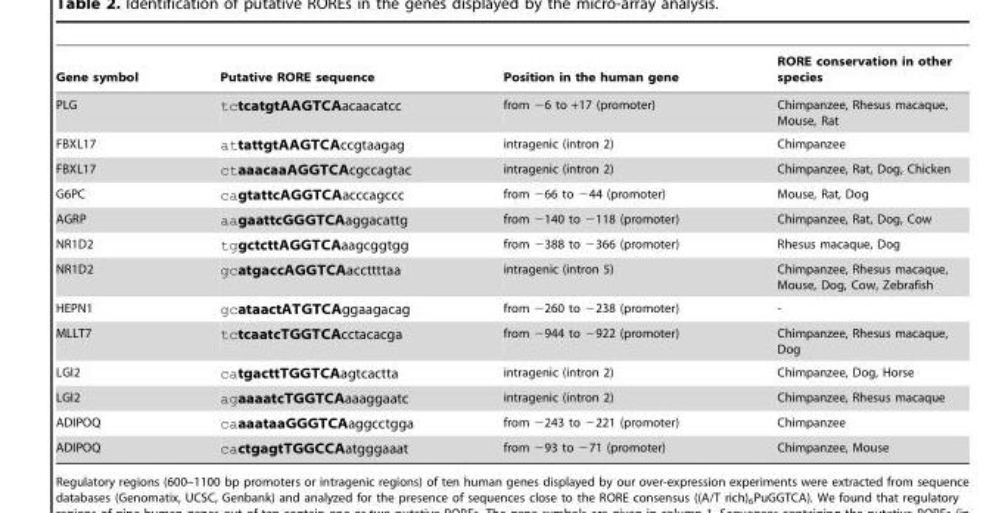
<table><thead><tr><td>Gene symbol</td><td>Putative RORE sequence</td><td>Position in the human gene</td><td>RORE conservation in other species</td></tr></thead><tbody><tr><td>PLG</td><td>tctcatgtAAGTCAacaacatcc</td><td>from −6 to +17 (promoter)</td><td>Chimpanzee, Rhesus macaque, Mouse, Rat</td></tr><tr><td>FBXL17</td><td>attattgtAAGTCAccgtaagag</td><td>intragenic (intron 2)</td><td>Chimpanzee</td></tr><tr><td>FBXL17</td><td>ctaaacaaAGGTCAcgccagtac</td><td>intragenic (intron 2)</td><td>Chimpanzee, Rat, Dog, Chicken</td></tr><tr><td>G6PC</td><td>cagtattcAGGTCAacccagccc</td><td>from −66 to −44 (promoter)</td><td>Mouse, Rat, Dog</td></tr><tr><td>AGRP</td><td>aagaattcGGGTCAaggacattg</td><td>from −140 to −118 (promoter)</td><td>Chimpanzee, Rat, Dog, Cow</td></tr><tr><td>NR1D2</td><td>tggctcttAGGTCAaagcggtgg</td><td>from −388 to −366 (promoter)</td><td>Rhesus macaque, Dog</td></tr><tr><td>NR1D2</td><td>gcatgaccAGGTCAaccttttaa</td><td>intragenic (intron 5)</td><td>Chimpanzee, Rhesus macaque, Mouse, Dog, Cow, Zebrafish</td></tr><tr><td>HEPN1</td><td>gcataactATGTCAggaagacag</td><td>from −260 to −238 (promoter)</td><td>-</td></tr><tr><td>MLLT7</td><td>tctcaatcTGGTCAcctacacga</td><td>from −944 to −922 (promoter)</td><td>Chimpanzee, Rhesus macaque, Dog</td></tr><tr><td>LGI2</td><td>catgacttTGGTCAagtcactta</td><td>intragenic (intron 2)</td><td>Chimpanzee, Dog, Horse</td></tr><tr><td>LGI2</td><td>agaaaatcTGGTCAaaaggaatc</td><td>intragenic (intron 2)</td><td>Chimpanzee, Rhesus macaque</td></tr><tr><td>ADIPOQ</td><td>caaaataaGGGTCAaggcctgga</td><td>from −243 to −221 (promoter)</td><td>Chimpanzee</td></tr><tr><td>ADIPOQ</td><td>cactgagtTGGCCAatgggaaat</td><td>from −93 to −71 (promoter)</td><td>Chimpanzee, Mouse</td></tr></tbody></table>